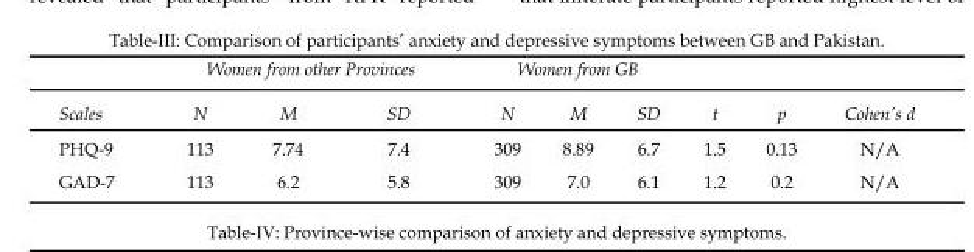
<table><thead><tr><td rowspan="2">Scales</td><td colspan="3">Women from other Provinces</td><td colspan="3">Women from GB</td><td rowspan="2">t</td><td rowspan="2">p</td><td rowspan="2">Cohen’s d</td></tr><tr><td>N</td><td>M</td><td>SD</td><td>N</td><td>M</td><td>SD</td></tr></thead><tbody><tr><td>PHQ-9</td><td>113</td><td>7.74</td><td>7.4</td><td>309</td><td>8.89</td><td>6.7</td><td>1.5</td><td>0.13</td><td>N/A</td></tr><tr><td>GAD-7</td><td>113</td><td>6.2</td><td>5.8</td><td>309</td><td>7.0</td><td>6.1</td><td>1.2</td><td>0.2</td><td>N/A</td></tr></tbody></table>